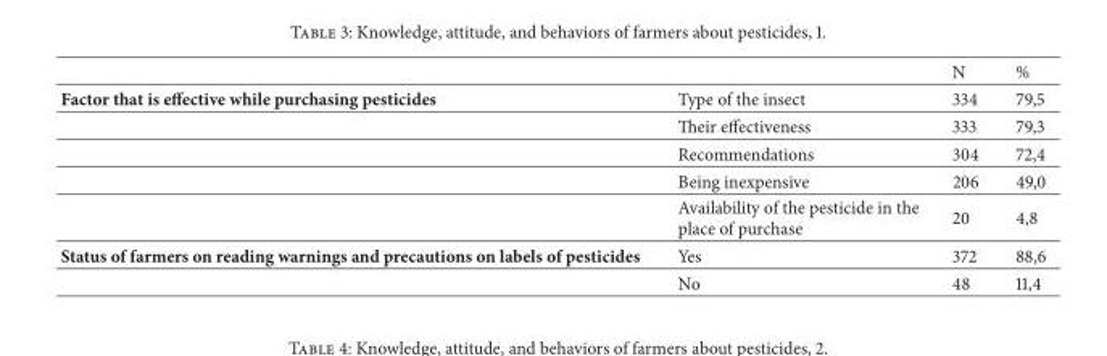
<table><thead><tr><td></td><td></td><td>N</td><td>%</td></tr></thead><tbody><tr><td rowspan="5">Factor that is effective while purchasing pesticides</td><td>Type of the insect</td><td>334</td><td>79,5</td></tr><tr><td>Their effectiveness</td><td>333</td><td>79,3</td></tr><tr><td>Recommendations</td><td>304</td><td>72,4</td></tr><tr><td>Being inexpensive</td><td>206</td><td>49,0</td></tr><tr><td>Availability of the pesticide in the place of purchase</td><td>20</td><td>4,8</td></tr><tr><td rowspan="2">Status of farmers on reading warnings and precautions on labels of pesticides</td><td>Yes</td><td>372</td><td>88,6</td></tr><tr><td>No</td><td>48</td><td>11,4</td></tr></tbody></table>